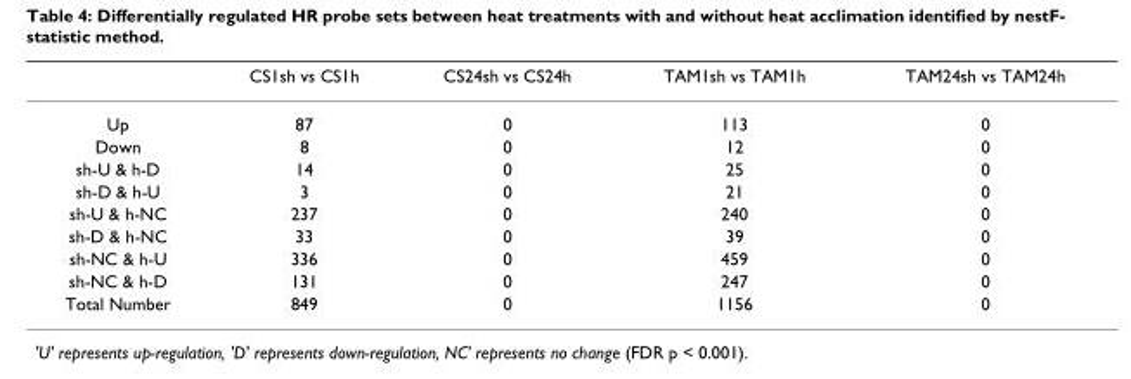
<table><thead><tr><td></td><td>CS1sh vs CS1h</td><td>CS24sh vs CS24h</td><td>TAM1sh vs TAM1h</td><td>TAM24sh vs TAM24h</td></tr></thead><tbody><tr><td>Up</td><td>87</td><td>0</td><td>113</td><td>0</td></tr><tr><td>Down</td><td>8</td><td>0</td><td>12</td><td>0</td></tr><tr><td>sh-U &amp; h-D</td><td>14</td><td>0</td><td>25</td><td>0</td></tr><tr><td>sh-D &amp; h-U</td><td>3</td><td>0</td><td>21</td><td>0</td></tr><tr><td>sh-U &amp; h-NC</td><td>237</td><td>0</td><td>240</td><td>0</td></tr><tr><td>sh-D &amp; h-NC</td><td>33</td><td>0</td><td>39</td><td>0</td></tr><tr><td>sh-NC &amp; h-U</td><td>336</td><td>0</td><td>459</td><td>0</td></tr><tr><td>sh-NC &amp; h-D</td><td>131</td><td>0</td><td>247</td><td>0</td></tr><tr><td>Total Number</td><td>849</td><td>0</td><td>1156</td><td>0</td></tr></tbody></table>